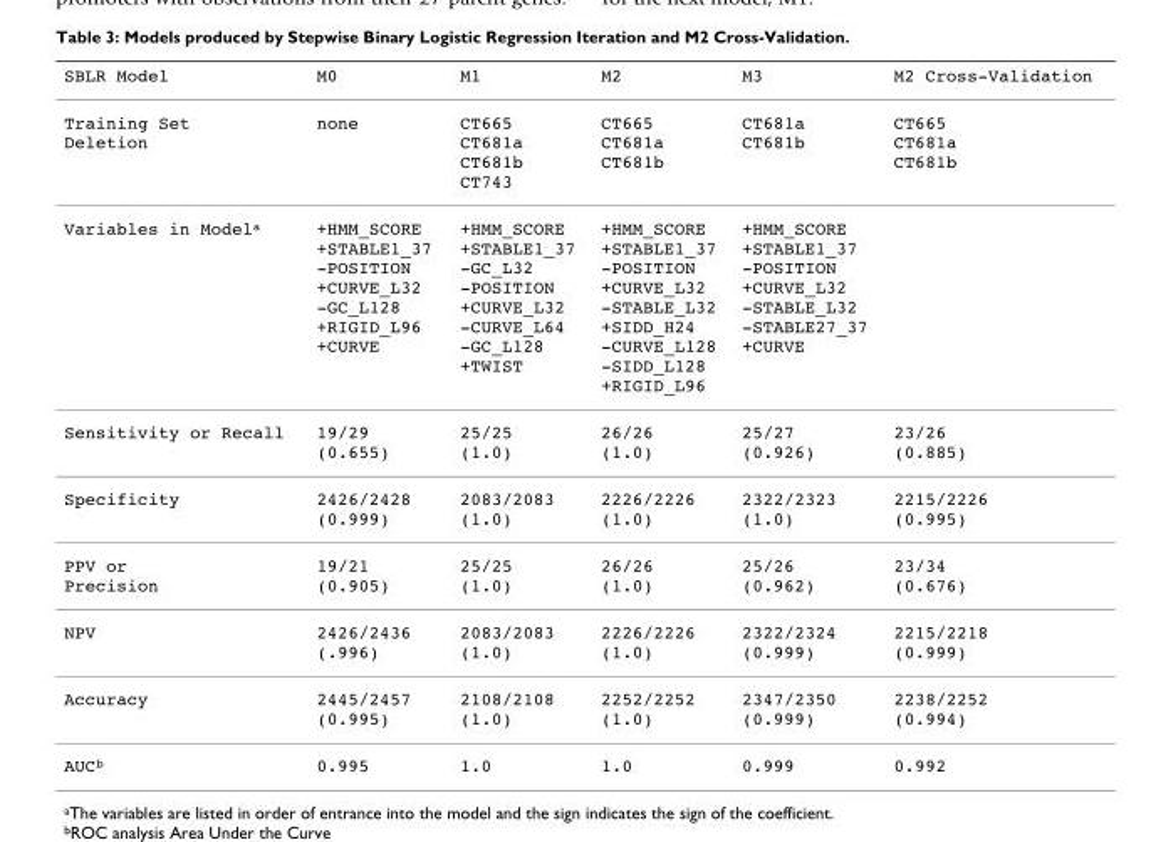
<table><thead><tr><td>SBLR Model</td><td>M0</td><td>M1</td><td>M2</td><td>M3</td><td>M2 Cross-Validation</td></tr></thead><tbody><tr><td>Training Set Deletion</td><td>none</td><td>CT665 CT681a CT681b CT743</td><td>CT665 CT681a CT681b</td><td>CT681a CT681b</td><td>CT665 CT681a CT681b</td></tr><tr><td>Variables in Model<sup>a</sup></td><td>+HMM_SCORE +STABLE1_37 -POSITION +CURVE_L32 -GC_L128 +RIGID_L96 +CURVE</td><td>+HMM_SCORE +STABLE1_37 -GC_L32 -POSITION +CURVE_L32 -CURVE_L64 -GC_L128 +TWIST</td><td>+HMM_SCORE +STABLE1_37 -POSITION +CURVE_L32 -STABLE_L32 +SIDD_H24 -CURVE_L128 -SIDD_L128 +RIGID_L96</td><td>+HMM_SCORE +STABLE1_37 -POSITION +CURVE_L32 -STABLE_L32 -STABLE27_37 +CURVE</td><td></td></tr><tr><td>Sensitivity or Recall</td><td>19/29 (0.655)</td><td>25/25 (1.0)</td><td>26/26 (1.0)</td><td>25/27 (0.926)</td><td>23/26 (0.885)</td></tr><tr><td>Specificity</td><td>2426/2428 (0.999)</td><td>2083/2083 (1.0)</td><td>2226/2226 (1.0)</td><td>2322/2323 (1.0)</td><td>2215/2226 (0.995)</td></tr><tr><td>PPV or Precision</td><td>19/21 (0.905)</td><td>25/25 (1.0)</td><td>26/26 (1.0)</td><td>25/26 (0.962)</td><td>23/34 (0.676)</td></tr><tr><td>NPV</td><td>2426/2436 (.996)</td><td>2083/2083 (1.0)</td><td>2226/2226 (1.0)</td><td>2322/2324 (0.999)</td><td>2215/2218 (0.999)</td></tr><tr><td>Accuracy</td><td>2445/2457 (0.995)</td><td>2108/2108 (1.0)</td><td>2252/2252 (1.0)</td><td>2347/2350 (0.999)</td><td>2238/2252 (0.994)</td></tr><tr><td>AUC<sup>b</sup></td><td>0.995</td><td>1.0</td><td>1.0</td><td>0.999</td><td>0.992</td></tr></tbody></table>